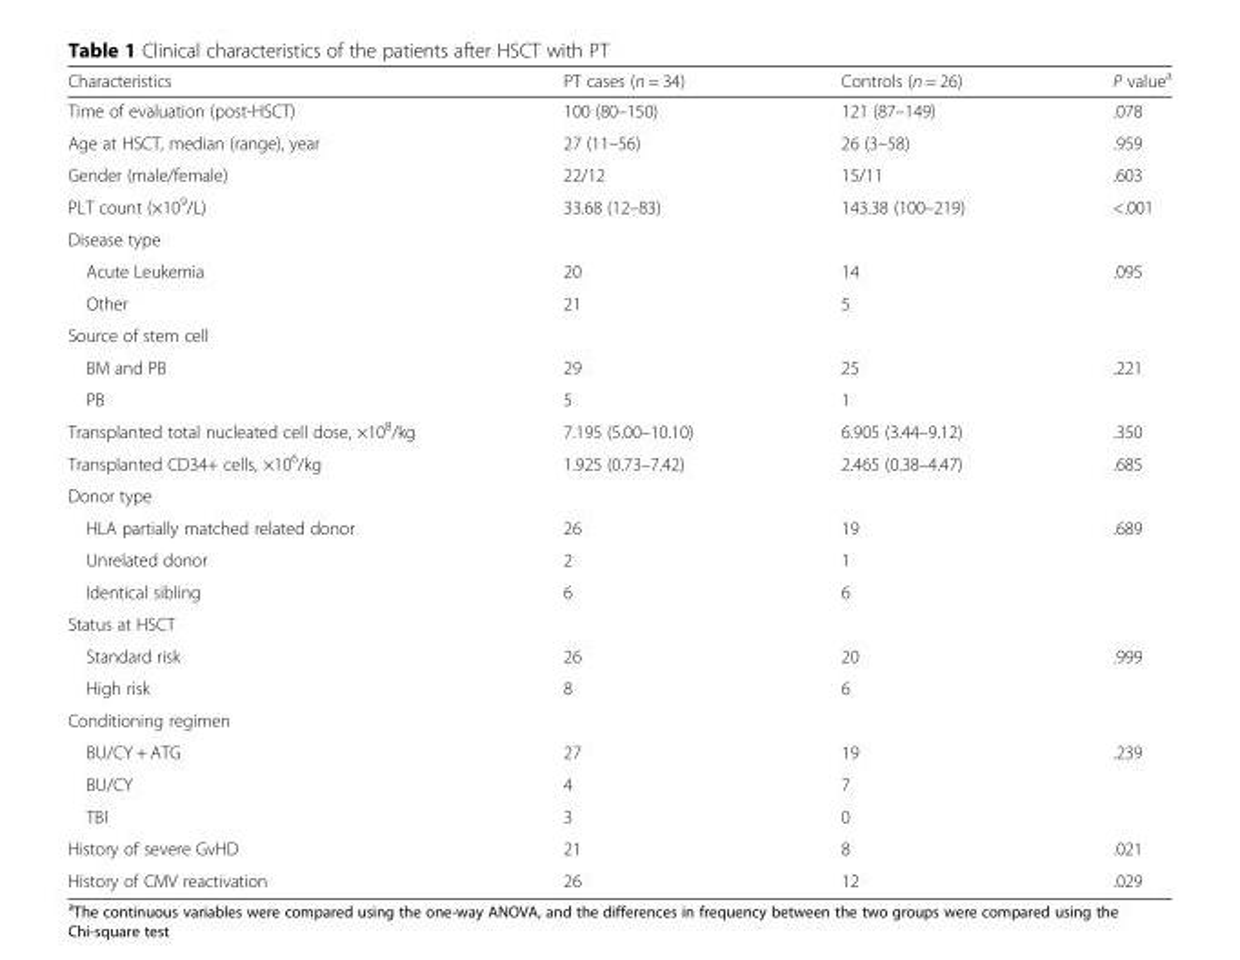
<table><thead><tr><td>Characteristics</td><td>PT cases (n = 34)</td><td>Controls (n = 26)</td><td>P value<sup>a</sup></td></tr></thead><tbody><tr><td>Time of evaluation (post-HSCT)</td><td>100 (80–150)</td><td>121 (87–149)</td><td>.078</td></tr><tr><td>Age at HSCT, median (range), year</td><td>27 (11–56)</td><td>26 (3–58)</td><td>.959</td></tr><tr><td>Gender (male/female)</td><td>22/12</td><td>15/11</td><td>.603</td></tr><tr><td>PLT count (×10<sup>9</sup>/L)</td><td>33.68 (12–83)</td><td>143.38 (100–219)</td><td>&lt;.001</td></tr><tr><td colspan="4">Disease type</td></tr><tr><td>Acute Leukemia</td><td>20</td><td>14</td><td>.095</td></tr><tr><td>Other</td><td>21</td><td>5</td><td></td></tr><tr><td colspan="4">Source of stem cell</td></tr><tr><td>BM and PB</td><td>29</td><td>25</td><td>.221</td></tr><tr><td>PB</td><td>5</td><td>1</td><td></td></tr><tr><td>Transplanted total nucleated cell dose, ×10<sup>8</sup>/kg</td><td>7.195 (5.00–10.10)</td><td>6.905 (3.44–9.12)</td><td>.350</td></tr><tr><td>Transplanted CD34+ cells, ×10<sup>6</sup>/kg</td><td>1.925 (0.73–7.42)</td><td>2.465 (0.38–4.47)</td><td>.685</td></tr><tr><td colspan="4">Donor type</td></tr><tr><td>HLA partially matched related donor</td><td>26</td><td>19</td><td>.689</td></tr><tr><td>Unrelated donor</td><td>2</td><td>1</td><td></td></tr><tr><td>Identical sibling</td><td>6</td><td>6</td><td></td></tr><tr><td colspan="4">Status at HSCT</td></tr><tr><td>Standard risk</td><td>26</td><td>20</td><td>.999</td></tr><tr><td>High risk</td><td>8</td><td>6</td><td></td></tr><tr><td colspan="4">Conditioning regimen</td></tr><tr><td>BU/CY + ATG</td><td>27</td><td>19</td><td>.239</td></tr><tr><td>BU/CY</td><td>4</td><td>7</td><td></td></tr><tr><td>TBI</td><td>3</td><td>0</td><td></td></tr><tr><td>History of severe GvHD</td><td>21</td><td>8</td><td>.021</td></tr><tr><td>History of CMV reactivation</td><td>26</td><td>12</td><td>.029</td></tr></tbody></table>